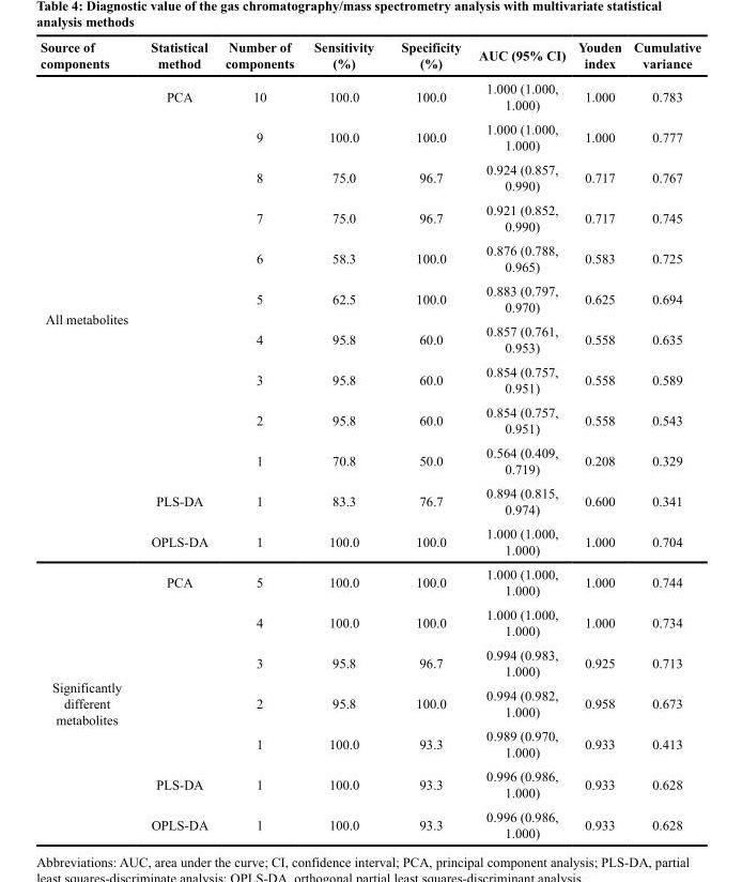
<table><thead><tr><td>Source of components</td><td>Statistical method</td><td>Number of components</td><td>Sensitivity (%)</td><td>Specificity (%)</td><td>AUC (95% CI)</td><td>Youden index</td><td>Cumulative variance</td></tr></thead><tbody><tr><td rowspan="12">All metabolites</td><td>PCA</td><td>10</td><td>100.0</td><td>100.0</td><td>1.000 (1.000, 1.000)</td><td>1.000</td><td>0.783</td></tr><tr><td></td><td>9</td><td>100.0</td><td>100.0</td><td>1.000 (1.000, 1.000)</td><td>1.000</td><td>0.777</td></tr><tr><td></td><td>8</td><td>75.0</td><td>96.7</td><td>0.924 (0.857, 0.990)</td><td>0.717</td><td>0.767</td></tr><tr><td></td><td>7</td><td>75.0</td><td>96.7</td><td>0.921 (0.852, 0.990)</td><td>0.717</td><td>0.745</td></tr><tr><td></td><td>6</td><td>58.3</td><td>100.0</td><td>0.876 (0.788, 0.965)</td><td>0.583</td><td>0.725</td></tr><tr><td></td><td>5</td><td>62.5</td><td>100.0</td><td>0.883 (0.797, 0.970)</td><td>0.625</td><td>0.694</td></tr><tr><td></td><td>4</td><td>95.8</td><td>60.0</td><td>0.857 (0.761, 0.953)</td><td>0.558</td><td>0.635</td></tr><tr><td></td><td>3</td><td>95.8</td><td>60.0</td><td>0.854 (0.757, 0.951)</td><td>0.558</td><td>0.589</td></tr><tr><td></td><td>2</td><td>95.8</td><td>60.0</td><td>0.854 (0.757, 0.951)</td><td>0.558</td><td>0.543</td></tr><tr><td></td><td>1</td><td>70.8</td><td>50.0</td><td>0.564 (0.409, 0.719)</td><td>0.208</td><td>0.329</td></tr><tr><td>PLS-DA</td><td>1</td><td>83.3</td><td>76.7</td><td>0.894 (0.815, 0.974)</td><td>0.600</td><td>0.341</td></tr><tr><td>OPLS-DA</td><td>1</td><td>100.0</td><td>100.0</td><td>1.000 (1.000, 1.000)</td><td>1.000</td><td>0.704</td></tr><tr><td rowspan="7">Significantly different metabolites</td><td>PCA</td><td>5</td><td>100.0</td><td>100.0</td><td>1.000 (1.000, 1.000)</td><td>1.000</td><td>0.744</td></tr><tr><td></td><td>4</td><td>100.0</td><td>100.0</td><td>1.000 (1.000, 1.000)</td><td>1.000</td><td>0.734</td></tr><tr><td></td><td>3</td><td>95.8</td><td>96.7</td><td>0.994 (0.983, 1.000)</td><td>0.925</td><td>0.713</td></tr><tr><td></td><td>2</td><td>95.8</td><td>100.0</td><td>0.994 (0.982, 1.000)</td><td>0.958</td><td>0.673</td></tr><tr><td></td><td>1</td><td>100.0</td><td>93.3</td><td>0.989 (0.970, 1.000)</td><td>0.933</td><td>0.413</td></tr><tr><td>PLS-DA</td><td>1</td><td>100.0</td><td>93.3</td><td>0.996 (0.986, 1.000)</td><td>0.933</td><td>0.628</td></tr><tr><td>OPLS-DA</td><td>1</td><td>100.0</td><td>93.3</td><td>0.996 (0.986, 1.000)</td><td>0.933</td><td>0.628</td></tr></tbody></table>